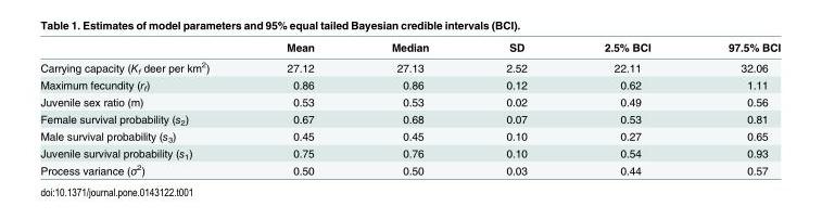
<table><thead><tr><td></td><td>Mean</td><td>Median</td><td>SD</td><td>2.5% BCI</td><td>97.5% BCI</td></tr></thead><tbody><tr><td>Carrying capacity (K<sub>f</sub> deer per km<sup>2</sup>)</td><td>27.12</td><td>27.13</td><td>2.52</td><td>22.11</td><td>32.06</td></tr><tr><td>Maximum fecundity (r<sub>f</sub>)</td><td>0.86</td><td>0.86</td><td>0.12</td><td>0.62</td><td>1.11</td></tr><tr><td>Juvenile sex ratio (m)</td><td>0.53</td><td>0.53</td><td>0.02</td><td>0.49</td><td>0.56</td></tr><tr><td>Female survival probability (s<sub>2</sub>)</td><td>0.67</td><td>0.68</td><td>0.07</td><td>0.53</td><td>0.81</td></tr><tr><td>Male survival probability (s<sub>3</sub>)</td><td>0.45</td><td>0.45</td><td>0.10</td><td>0.27</td><td>0.65</td></tr><tr><td>Juvenile survival probability (s<sub>1</sub>)</td><td>0.75</td><td>0.76</td><td>0.10</td><td>0.54</td><td>0.93</td></tr><tr><td>Process variance (σ<sup>2</sup>)</td><td>0.50</td><td>0.50</td><td>0.03</td><td>0.44</td><td>0.57</td></tr></tbody></table>